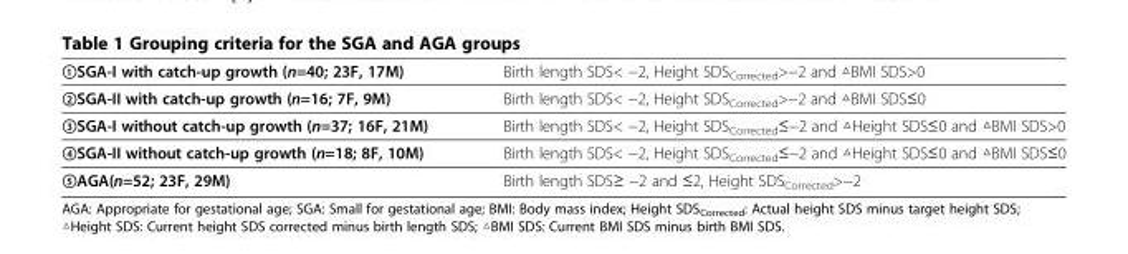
<table><thead><tr><td>①SGA-I with catch-up growth (n=40; 23F, 17M)</td><td>Birth length SDS&lt; −2, Height SDSCorrected&gt;−2 and △BMI SDS&gt;0</td></tr></thead><tbody><tr><td>②SGA-II with catch-up growth (n=16; 7F, 9M)</td><td>Birth length SDS&lt; −2, Height SDS<sub>Corrected</sub>&gt;−2 and △BMI SDS≤0</td></tr><tr><td>③SGA-I without catch-up growth (n=37; 16F, 21M)</td><td>Birth length SDS&lt; −2, Height SDS<sub>Corrected</sub>≤−2 and △Height SDS≤0 and △BMI SDS&gt;0</td></tr><tr><td>④SGA-II without catch-up growth (n=18; 8F, 10M)</td><td>Birth length SDS&lt; −2, Height SDS<sub>Corrected</sub>≤−2 and △Height SDS≤0 and △BMI SDS≤0</td></tr><tr><td>⑤AGA(n=52; 23F, 29M)</td><td>Birth length SDS≥ −2 and ≤2, Height SDS<sub>Corrected</sub>&gt;−2</td></tr></tbody></table>